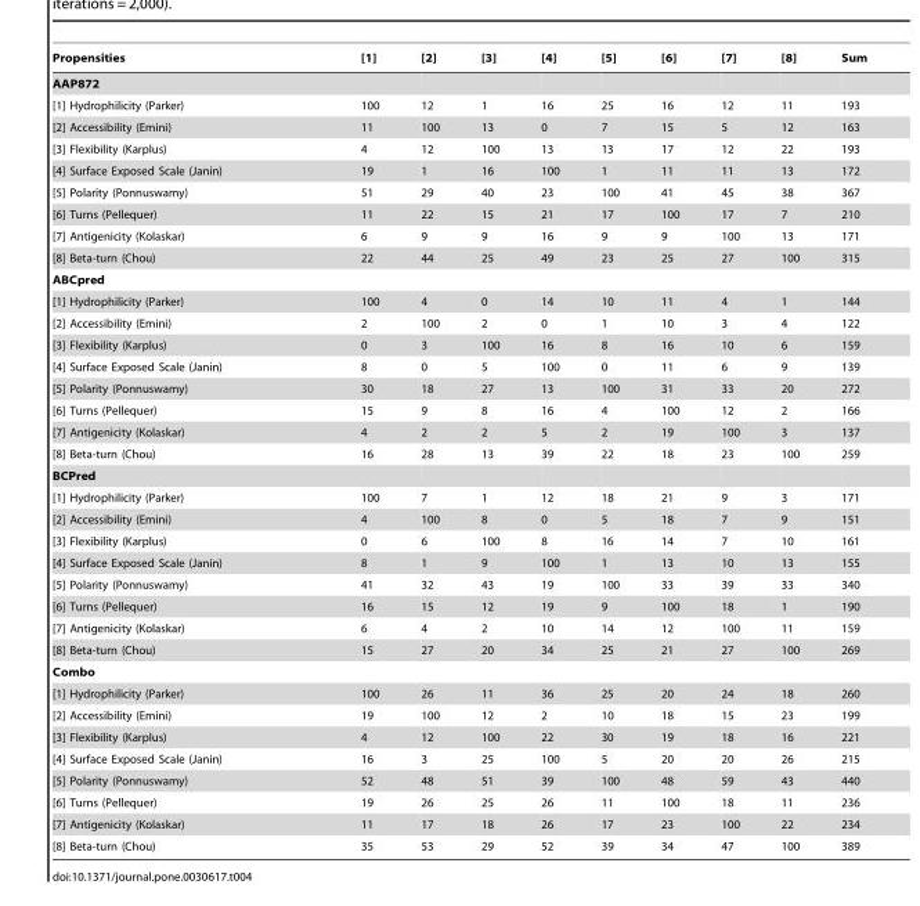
<table><thead><tr><td>Propensities</td><td>[1]</td><td>[2]</td><td>[3]</td><td>[4]</td><td>[5]</td><td>[6]</td><td>[7]</td><td>[8]</td><td>Sum</td></tr></thead><tbody><tr><td colspan="10">AAP872</td></tr><tr><td>[1] Hydrophilicity (Parker)</td><td>100</td><td>12</td><td>1</td><td>16</td><td>25</td><td>16</td><td>12</td><td>11</td><td>193</td></tr><tr><td>[2] Accessibility (Emini)</td><td>11</td><td>100</td><td>13</td><td>0</td><td>7</td><td>15</td><td>5</td><td>12</td><td>163</td></tr><tr><td>[3] Flexibility (Karplus)</td><td>4</td><td>12</td><td>100</td><td>13</td><td>13</td><td>17</td><td>12</td><td>22</td><td>193</td></tr><tr><td>[4] Surface Exposed Scale (Janin)</td><td>19</td><td>1</td><td>16</td><td>100</td><td>1</td><td>11</td><td>11</td><td>13</td><td>172</td></tr><tr><td>[5] Polarity (Ponnuswamy)</td><td>51</td><td>29</td><td>40</td><td>23</td><td>100</td><td>41</td><td>45</td><td>38</td><td>367</td></tr><tr><td>[6] Turns (Pellequer)</td><td>11</td><td>22</td><td>15</td><td>21</td><td>17</td><td>100</td><td>17</td><td>7</td><td>210</td></tr><tr><td>[7] Antigenicity (Kolaskar)</td><td>6</td><td>9</td><td>9</td><td>16</td><td>9</td><td>9</td><td>100</td><td>13</td><td>171</td></tr><tr><td>[8] Beta-turn (Chou)</td><td>22</td><td>44</td><td>25</td><td>49</td><td>23</td><td>25</td><td>27</td><td>100</td><td>315</td></tr><tr><td colspan="10">ABCpred</td></tr><tr><td>[1] Hydrophilicity (Parker)</td><td>100</td><td>4</td><td>0</td><td>14</td><td>10</td><td>11</td><td>4</td><td>1</td><td>144</td></tr><tr><td>[2] Accessibility (Emini)</td><td>2</td><td>100</td><td>2</td><td>0</td><td>1</td><td>10</td><td>3</td><td>4</td><td>122</td></tr><tr><td>[3] Flexibility (Karplus)</td><td>0</td><td>3</td><td>100</td><td>16</td><td>8</td><td>16</td><td>10</td><td>6</td><td>159</td></tr><tr><td>[4] Surface Exposed Scale (Janin)</td><td>8</td><td>0</td><td>5</td><td>100</td><td>0</td><td>11</td><td>6</td><td>9</td><td>139</td></tr><tr><td>[5] Polarity (Ponnuswamy)</td><td>30</td><td>18</td><td>27</td><td>13</td><td>100</td><td>31</td><td>33</td><td>20</td><td>272</td></tr><tr><td>[6] Turns (Pellequer)</td><td>15</td><td>9</td><td>8</td><td>16</td><td>4</td><td>100</td><td>12</td><td>2</td><td>166</td></tr><tr><td>[7] Antigenicity (Kolaskar)</td><td>4</td><td>2</td><td>2</td><td>5</td><td>2</td><td>19</td><td>100</td><td>3</td><td>137</td></tr><tr><td>[8] Beta-turn (Chou)</td><td>16</td><td>28</td><td>13</td><td>39</td><td>22</td><td>18</td><td>23</td><td>100</td><td>259</td></tr><tr><td colspan="10">BCPred</td></tr><tr><td>[1] Hydrophilicity (Parker)</td><td>100</td><td>7</td><td>1</td><td>12</td><td>18</td><td>21</td><td>9</td><td>3</td><td>171</td></tr><tr><td>[2] Accessibility (Emini)</td><td>4</td><td>100</td><td>8</td><td>0</td><td>5</td><td>18</td><td>7</td><td>9</td><td>151</td></tr><tr><td>[3] Flexibility (Karplus)</td><td>0</td><td>6</td><td>100</td><td>8</td><td>16</td><td>14</td><td>7</td><td>10</td><td>161</td></tr><tr><td>[4] Surface Exposed Scale (Janin)</td><td>8</td><td>1</td><td>9</td><td>100</td><td>1</td><td>13</td><td>10</td><td>13</td><td>155</td></tr><tr><td>[5] Polarity (Ponnuswamy)</td><td>41</td><td>32</td><td>43</td><td>19</td><td>100</td><td>33</td><td>39</td><td>33</td><td>340</td></tr><tr><td>[6] Turns (Pellequer)</td><td>16</td><td>15</td><td>12</td><td>19</td><td>9</td><td>100</td><td>18</td><td>1</td><td>190</td></tr><tr><td>[7] Antigenicity (Kolaskar)</td><td>6</td><td>4</td><td>2</td><td>10</td><td>14</td><td>12</td><td>100</td><td>11</td><td>159</td></tr><tr><td>[8] Beta-turn (Chou)</td><td>15</td><td>27</td><td>20</td><td>34</td><td>25</td><td>21</td><td>27</td><td>100</td><td>269</td></tr><tr><td colspan="10">Combo</td></tr><tr><td>[1] Hydrophilicity (Parker)</td><td>100</td><td>26</td><td>11</td><td>36</td><td>25</td><td>20</td><td>24</td><td>18</td><td>260</td></tr><tr><td>[2] Accessibility (Emini)</td><td>19</td><td>100</td><td>12</td><td>2</td><td>10</td><td>18</td><td>15</td><td>23</td><td>199</td></tr><tr><td>[3] Flexibility (Karplus)</td><td>4</td><td>12</td><td>100</td><td>22</td><td>30</td><td>19</td><td>18</td><td>16</td><td>221</td></tr><tr><td>[4] Surface Exposed Scale (Janin)</td><td>16</td><td>3</td><td>25</td><td>100</td><td>5</td><td>20</td><td>20</td><td>26</td><td>215</td></tr><tr><td>[5] Polarity (Ponnuswamy)</td><td>52</td><td>48</td><td>51</td><td>39</td><td>100</td><td>48</td><td>59</td><td>43</td><td>440</td></tr><tr><td>[6] Turns (Pellequer)</td><td>19</td><td>26</td><td>25</td><td>26</td><td>11</td><td>100</td><td>18</td><td>11</td><td>236</td></tr><tr><td>[7] Antigenicity (Kolaskar)</td><td>11</td><td>17</td><td>18</td><td>26</td><td>17</td><td>23</td><td>100</td><td>22</td><td>234</td></tr><tr><td>[8] Beta-turn (Chou)</td><td>35</td><td>53</td><td>29</td><td>52</td><td>39</td><td>34</td><td>47</td><td>100</td><td>389</td></tr></tbody></table>